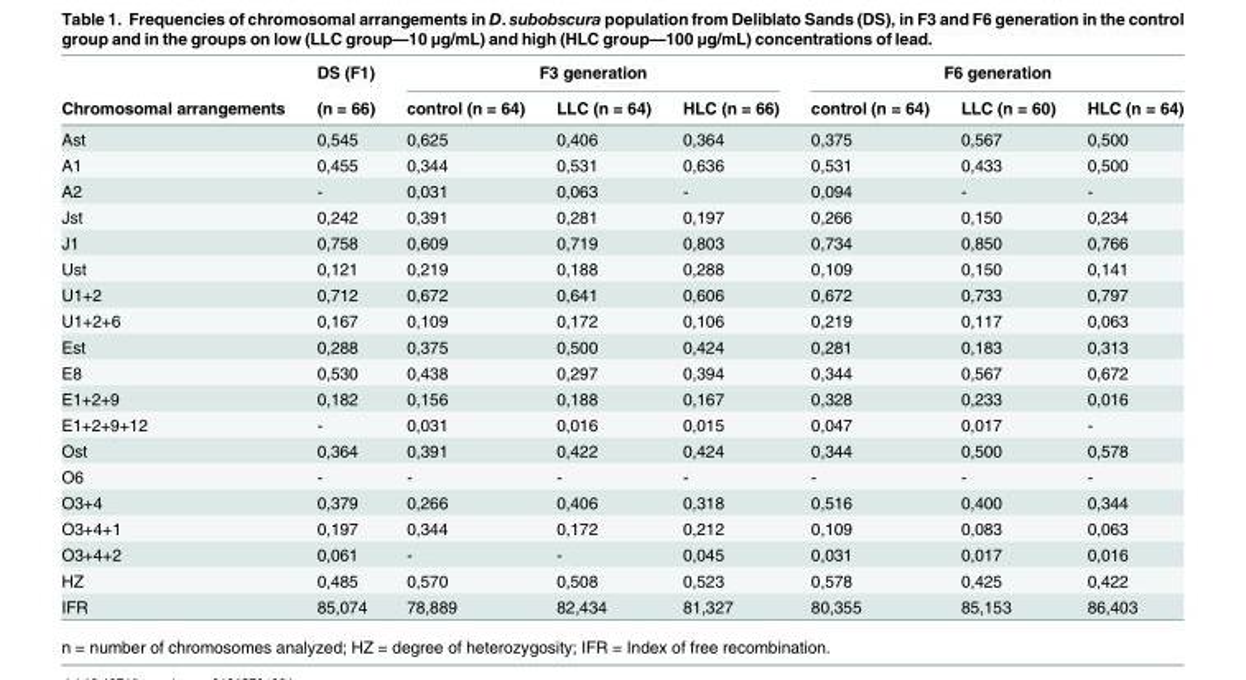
<table><thead><tr><td rowspan="2">Chromosomal arrangements</td><td rowspan="2">DS (F1) (n = 66)</td><td colspan="3">F3 generation</td><td colspan="3">F6 generation</td></tr><tr><td>control (n = 64)</td><td>LLC (n = 64)</td><td>HLC (n = 66)</td><td>control (n = 64)</td><td>LLC (n = 60)</td><td>HLC (n = 64)</td></tr></thead><tbody><tr><td>Ast</td><td>0,545</td><td>0,625</td><td>0,406</td><td>0,364</td><td>0,375</td><td>0,567</td><td>0,500</td></tr><tr><td>A1</td><td>0,455</td><td>0,344</td><td>0,531</td><td>0,636</td><td>0,531</td><td>0,433</td><td>0,500</td></tr><tr><td>A2</td><td>-</td><td>0,031</td><td>0,063</td><td>-</td><td>0,094</td><td>-</td><td>-</td></tr><tr><td>Jst</td><td>0,242</td><td>0,391</td><td>0,281</td><td>0,197</td><td>0,266</td><td>0,150</td><td>0,234</td></tr><tr><td>J1</td><td>0,758</td><td>0,609</td><td>0,719</td><td>0,803</td><td>0,734</td><td>0,850</td><td>0,766</td></tr><tr><td>Ust</td><td>0,121</td><td>0,219</td><td>0,188</td><td>0,288</td><td>0,109</td><td>0,150</td><td>0,141</td></tr><tr><td>U1+2</td><td>0,712</td><td>0,672</td><td>0,641</td><td>0,606</td><td>0,672</td><td>0,733</td><td>0,797</td></tr><tr><td>U1+2+6</td><td>0,167</td><td>0,109</td><td>0,172</td><td>0,106</td><td>0,219</td><td>0,117</td><td>0,063</td></tr><tr><td>Est</td><td>0,288</td><td>0,375</td><td>0,500</td><td>0,424</td><td>0,281</td><td>0,183</td><td>0,313</td></tr><tr><td>E8</td><td>0,530</td><td>0,438</td><td>0,297</td><td>0,394</td><td>0,344</td><td>0,567</td><td>0,672</td></tr><tr><td>E1+2+9</td><td>0,182</td><td>0,156</td><td>0,188</td><td>0,167</td><td>0,328</td><td>0,233</td><td>0,016</td></tr><tr><td>E1+2+9+12</td><td>-</td><td>0,031</td><td>0,016</td><td>0,015</td><td>0,047</td><td>0,017</td><td>-</td></tr><tr><td>Ost</td><td>0,364</td><td>0,391</td><td>0,422</td><td>0,424</td><td>0,344</td><td>0,500</td><td>0,578</td></tr><tr><td>O6</td><td>-</td><td>-</td><td>-</td><td>-</td><td>-</td><td>-</td><td>-</td></tr><tr><td>O3+4</td><td>0,379</td><td>0,266</td><td>0,406</td><td>0,318</td><td>0,516</td><td>0,400</td><td>0,344</td></tr><tr><td>O3+4+1</td><td>0,197</td><td>0,344</td><td>0,172</td><td>0,212</td><td>0,109</td><td>0,083</td><td>0,063</td></tr><tr><td>O3+4+2</td><td>0,061</td><td>-</td><td>-</td><td>0,045</td><td>0,031</td><td>0,017</td><td>0,016</td></tr><tr><td>HZ</td><td>0,485</td><td>0,570</td><td>0,508</td><td>0,523</td><td>0,578</td><td>0,425</td><td>0,422</td></tr><tr><td>IFR</td><td>85,074</td><td>78,889</td><td>82,434</td><td>81,327</td><td>80,355</td><td>85,153</td><td>86,403</td></tr></tbody></table>